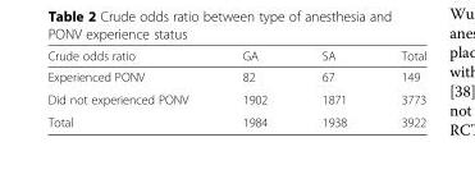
<table><thead><tr><td>Crude odds ratio</td><td>GA</td><td>SA</td><td>Total</td></tr></thead><tbody><tr><td>Experienced PONV</td><td>82</td><td>67</td><td>149</td></tr><tr><td>Did not experienced PONV</td><td>1902</td><td>1871</td><td>3773</td></tr><tr><td>Total</td><td>1984</td><td>1938</td><td>3922</td></tr></tbody></table>